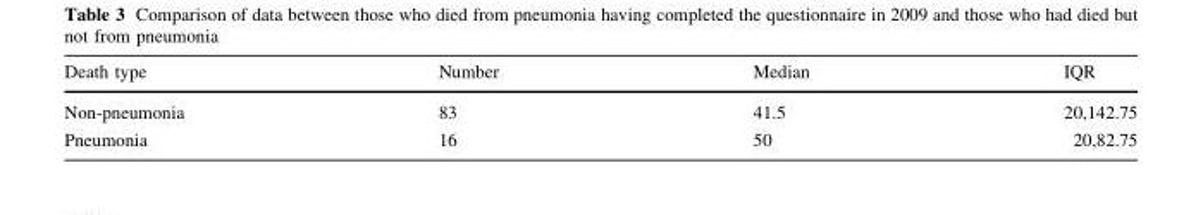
<table><thead><tr><td>Death type</td><td>Number</td><td>Median</td><td>IQR</td></tr></thead><tbody><tr><td>Non-pneumonia</td><td>83</td><td>41.5</td><td>20,142.75</td></tr><tr><td>Pneumonia</td><td>16</td><td>50</td><td>20,82.75</td></tr></tbody></table>